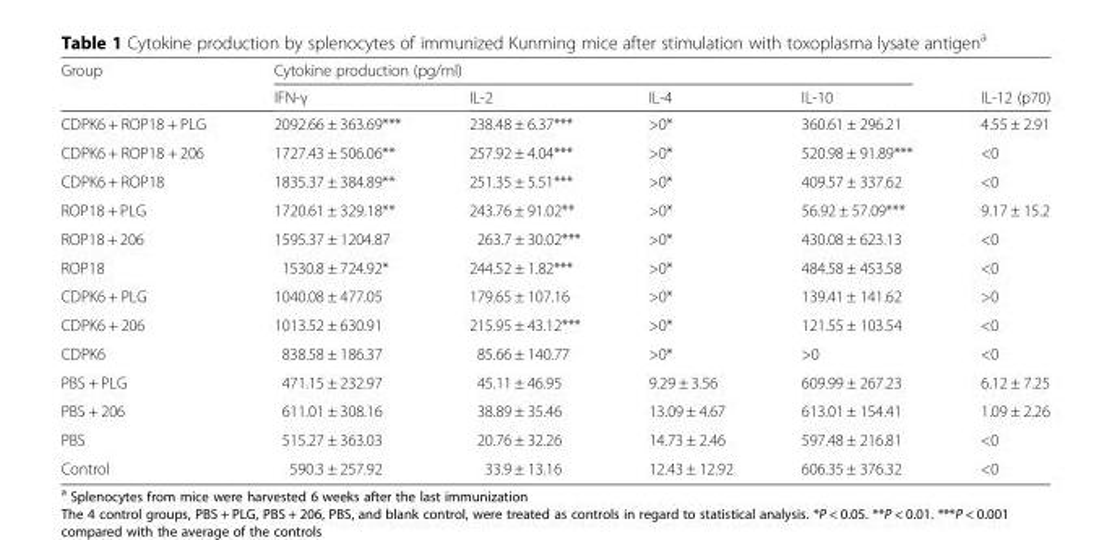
<table><thead><tr><td rowspan="2">Group</td><td colspan="4">Cytokine production (pg/ml)</td><td rowspan="2">IL-12 (p70)</td></tr><tr><td>IFN-γ</td><td>IL-2</td><td>IL-4</td><td>IL-10</td></tr></thead><tbody><tr><td>CDPK6 + ROP18 + PLG</td><td>2092.66 ± 363.69***</td><td>238.48 ± 6.37***</td><td>&gt;0*</td><td>360.61 ± 296.21</td><td>4.55 ± 2.91</td></tr><tr><td>CDPK6 + ROP18 + 206</td><td>1727.43 ± 506.06**</td><td>257.92 ± 4.04***</td><td>&gt;0*</td><td>520.98 ± 91.89***</td><td>&lt;0</td></tr><tr><td>CDPK6 + ROP18</td><td>1835.37 ± 384.89**</td><td>251.35 ± 5.51***</td><td>&gt;0*</td><td>409.57 ± 337.62</td><td>&lt;0</td></tr><tr><td>ROP18 + PLG</td><td>1720.61 ± 329.18**</td><td>243.76 ± 91.02**</td><td>&gt;0*</td><td>56.92 ± 57.09***</td><td>9.17 ± 15.2</td></tr><tr><td>ROP18 + 206</td><td>1595.37 ± 1204.87</td><td>263.7 ± 30.02***</td><td>&gt;0*</td><td>430.08 ± 623.13</td><td>&lt;0</td></tr><tr><td>ROP18</td><td>1530.8 ± 724.92*</td><td>244.52 ± 1.82***</td><td>&gt;0*</td><td>484.58 ± 453.58</td><td>&lt;0</td></tr><tr><td>CDPK6 + PLG</td><td>1040.08 ± 477.05</td><td>179.65 ± 107.16</td><td>&gt;0*</td><td>139.41 ± 141.62</td><td>&gt;0</td></tr><tr><td>CDPK6 + 206</td><td>1013.52 ± 630.91</td><td>215.95 ± 43.12***</td><td>&gt;0*</td><td>121.55 ± 103.54</td><td>&lt;0</td></tr><tr><td>CDPK6</td><td>838.58 ± 186.37</td><td>85.66 ± 140.77</td><td>&gt;0*</td><td>&gt;0</td><td>&lt;0</td></tr><tr><td>PBS + PLG</td><td>471.15 ± 232.97</td><td>45.11 ± 46.95</td><td>9.29 ± 3.56</td><td>609.99 ± 267.23</td><td>6.12 ± 7.25</td></tr><tr><td>PBS + 206</td><td>611.01 ± 308.16</td><td>38.89 ± 35.46</td><td>13.09 ± 4.67</td><td>613.01 ± 154.41</td><td>1.09 ± 2.26</td></tr><tr><td>PBS</td><td>515.27 ± 363.03</td><td>20.76 ± 32.26</td><td>14.73 ± 2.46</td><td>597.48 ± 216.81</td><td>&lt;0</td></tr><tr><td>Control</td><td>590.3 ± 257.92</td><td>33.9 ± 13.16</td><td>12.43 ± 12.92</td><td>606.35 ± 376.32</td><td>&lt;0</td></tr></tbody></table>